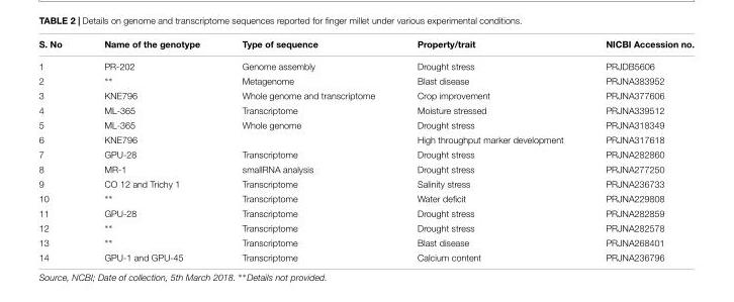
<table><thead><tr><td>S. No</td><td>Name of the genotype</td><td>Type of sequence</td><td>Property/trait</td><td>NICBI Accession no.</td></tr></thead><tbody><tr><td>1</td><td>PR-202</td><td>Genome assembly</td><td>Drought stress</td><td>PRJDB5606</td></tr><tr><td>2</td><td>∗∗</td><td>Metagenome</td><td>Blast disease</td><td>PRJNA383952</td></tr><tr><td>3</td><td>KNE796</td><td>Whole genome and transcriptome</td><td>Crop improvement</td><td>PRJNA377606</td></tr><tr><td>4</td><td>ML-365</td><td>Transcriptome</td><td>Moisture stressed</td><td>PRJNA339512</td></tr><tr><td>5</td><td>ML-365</td><td>Whole genome</td><td>Drought stress</td><td>PRJNA318349</td></tr><tr><td>6</td><td>KNE796</td><td></td><td>High throughput marker development</td><td>PRJNA317618</td></tr><tr><td>7</td><td>GPU-28</td><td>Transcriptome</td><td>Drought stress</td><td>PRJNA282860</td></tr><tr><td>8</td><td>MR-1</td><td>smallRNA analysis</td><td>Drought stress</td><td>PRJNA277250</td></tr><tr><td>9</td><td>CO 12 and Trichy 1</td><td>Transcriptome</td><td>Salinity stress</td><td>PRJNA236733</td></tr><tr><td>10</td><td>∗∗</td><td>Transcriptome</td><td>Water deficit</td><td>PRJNA229808</td></tr><tr><td>11</td><td>GPU-28</td><td>Transcriptome</td><td>Drought stress</td><td>PRJNA282859</td></tr><tr><td>12</td><td>∗∗</td><td>Transcriptome</td><td>Drought stress</td><td>PRJNA282578</td></tr><tr><td>13</td><td>∗∗</td><td>Transcriptome</td><td>Blast disease</td><td>PRJNA268401</td></tr><tr><td>14</td><td>GPU-1 and GPU-45</td><td>Transcriptome</td><td>Calcium content</td><td>PRJNA236796</td></tr></tbody></table>